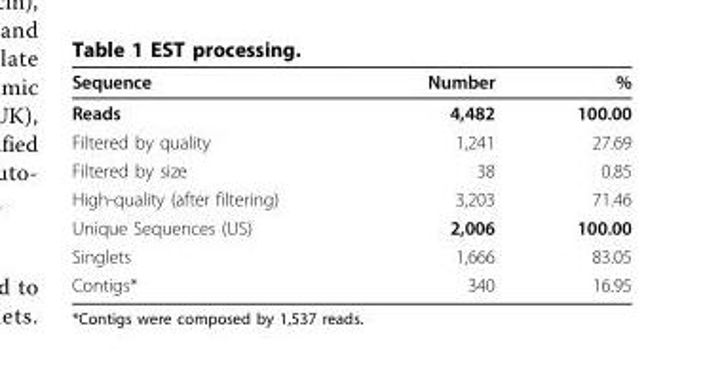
<table><thead><tr><td>Sequence</td><td>Number</td><td>%</td></tr></thead><tbody><tr><td>Reads</td><td>4,482</td><td>100.00</td></tr><tr><td>Filtered by quality</td><td>1,241</td><td>27.69</td></tr><tr><td>Filtered by size</td><td>38</td><td>0.85</td></tr><tr><td>High-quality (after filtering)</td><td>3,203</td><td>71.46</td></tr><tr><td>Unique Sequences (US)</td><td>2,006</td><td>100.00</td></tr><tr><td>Singlets</td><td>1,666</td><td>83.05</td></tr><tr><td>Contigs*</td><td>340</td><td>16.95</td></tr></tbody></table>